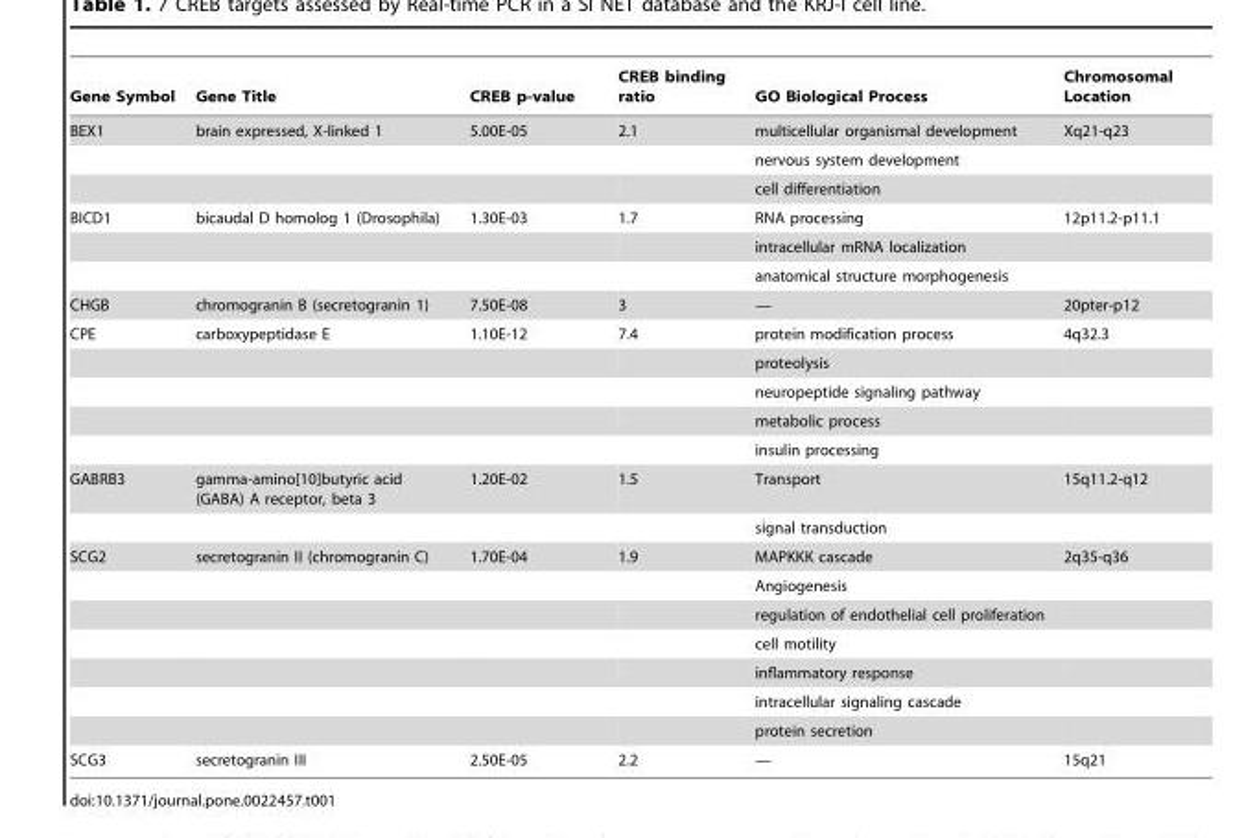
<table><thead><tr><td>Gene Symbol</td><td>Gene Title</td><td>CREB p-value</td><td>CREB binding ratio</td><td>GO Biological Process</td><td>Chromosomal Location</td></tr></thead><tbody><tr><td rowspan="3">BEX1</td><td>brain expressed, X-linked 1</td><td>5.00E-05</td><td>2.1</td><td>multicellular organismal development</td><td>Xq21-q23</td></tr><tr><td></td><td></td><td></td><td>nervous system development</td><td></td></tr><tr><td></td><td></td><td></td><td>cell differentiation</td><td></td></tr><tr><td rowspan="3">BICD1</td><td>bicaudal D homolog 1 (Drosophila)</td><td>1.30E-03</td><td>1.7</td><td>RNA processing</td><td>12p11.2-p11.1</td></tr><tr><td></td><td></td><td></td><td>intracellular mRNA localization</td><td></td></tr><tr><td></td><td></td><td></td><td>anatomical structure morphogenesis</td><td></td></tr><tr><td>CHGB</td><td>chromogranin B (secretogranin 1)</td><td>7.50E-08</td><td>3</td><td>—</td><td>20pter-p12</td></tr><tr><td rowspan="5">CPE</td><td>carboxypeptidase E</td><td>1.10E-12</td><td>7.4</td><td>protein modification process</td><td>4q32.3</td></tr><tr><td></td><td></td><td></td><td>proteolysis</td><td></td></tr><tr><td></td><td></td><td></td><td>neuropeptide signaling pathway</td><td></td></tr><tr><td></td><td></td><td></td><td>metabolic process</td><td></td></tr><tr><td></td><td></td><td></td><td>insulin processing</td><td></td></tr><tr><td rowspan="2">GABRB3</td><td>gamma-amino[10]butyric acid (GABA) A receptor, beta 3</td><td>1.20E-02</td><td>1.5</td><td>Transport</td><td>15q11.2-q12</td></tr><tr><td></td><td></td><td></td><td>signal transduction</td><td></td></tr><tr><td rowspan="7">SCG2</td><td>secretogranin II (chromogranin C)</td><td>1.70E-04</td><td>1.9</td><td>MAPKKK cascade</td><td>2q35-q36</td></tr><tr><td></td><td></td><td></td><td>Angiogenesis</td><td></td></tr><tr><td></td><td></td><td></td><td>regulation of endothelial cell proliferation</td><td></td></tr><tr><td></td><td></td><td></td><td>cell motility</td><td></td></tr><tr><td></td><td></td><td></td><td>inflammatory response</td><td></td></tr><tr><td></td><td></td><td></td><td>intracellular signaling cascade</td><td></td></tr><tr><td></td><td></td><td></td><td>protein secretion</td><td></td></tr><tr><td>SCG3</td><td>secretogranin III</td><td>2.50E-05</td><td>2.2</td><td>—</td><td>15q21</td></tr></tbody></table>